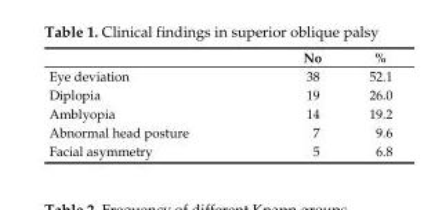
<table><thead><tr><td></td><td>No</td><td>%</td></tr></thead><tbody><tr><td>Eye deviation</td><td>38</td><td>52.1</td></tr><tr><td>Diplopia</td><td>19</td><td>26.0</td></tr><tr><td>Amblyopia</td><td>14</td><td>19.2</td></tr><tr><td>Abnormal head posture</td><td>7</td><td>9.6</td></tr><tr><td>Facial asymmetry</td><td>5</td><td>6.8</td></tr></tbody></table>